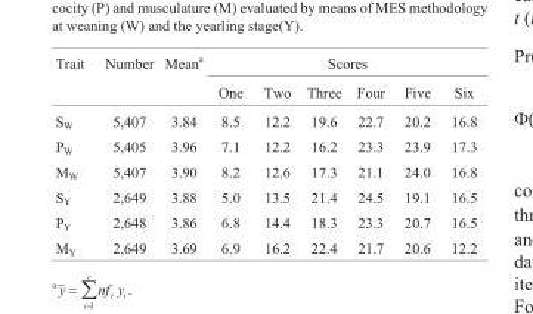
<table><thead><tr><td rowspan="2">Trait</td><td rowspan="2">Number</td><td rowspan="2">Mean<sup>a</sup></td><td colspan="6">Scores</td></tr><tr><td>One</td><td>Two</td><td>Three</td><td>Four</td><td>Five</td><td>Six</td></tr></thead><tbody><tr><td>S<sub>W</sub></td><td>5,407</td><td>3.84</td><td>8.5</td><td>12.2</td><td>19.6</td><td>22.7</td><td>20.2</td><td>16.8</td></tr><tr><td>P<sub>W</sub></td><td>5,405</td><td>3.96</td><td>7.1</td><td>12.2</td><td>16.2</td><td>23.3</td><td>23.9</td><td>17.3</td></tr><tr><td>M<sub>W</sub></td><td>5,407</td><td>3.90</td><td>8.2</td><td>12.6</td><td>17.3</td><td>21.1</td><td>24.0</td><td>16.8</td></tr><tr><td>S<sub>Y</sub></td><td>2,649</td><td>3.88</td><td>5.0</td><td>13.5</td><td>21.4</td><td>24.5</td><td>19.1</td><td>16.5</td></tr><tr><td>P<sub>Y</sub></td><td>2,648</td><td>3.86</td><td>6.8</td><td>14.4</td><td>18.3</td><td>23.3</td><td>20.7</td><td>16.5</td></tr><tr><td>M<sub>Y</sub></td><td>2,649</td><td>3.69</td><td>6.9</td><td>16.2</td><td>22.4</td><td>21.7</td><td>20.6</td><td>12.2</td></tr></tbody></table>